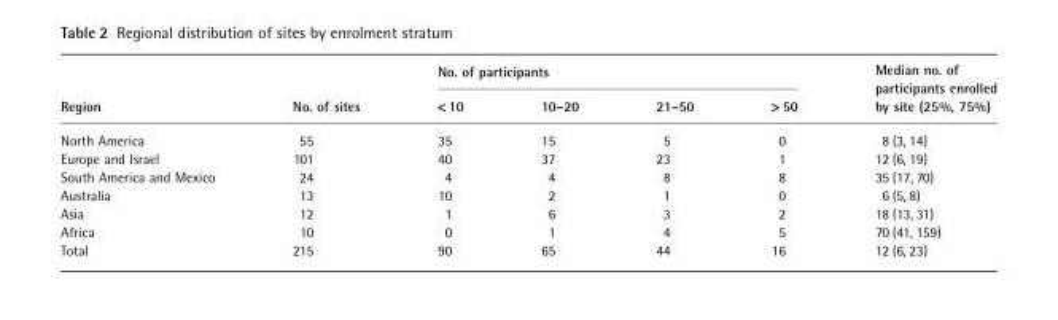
<table><thead><tr><td rowspan="2">Region</td><td rowspan="2">No. of sites</td><td colspan="4">No. of participants</td><td rowspan="2">Median no. of participants enrolled by site (25%, 75%)</td></tr><tr><td>&lt; 10</td><td>10–20</td><td>21–50</td><td>&gt; 50</td></tr></thead><tbody><tr><td>North America</td><td>55</td><td>35</td><td>15</td><td>5</td><td>0</td><td>8 (3, 14)</td></tr><tr><td>Europe and Israel</td><td>101</td><td>40</td><td>37</td><td>23</td><td>1</td><td>12 (6, 19)</td></tr><tr><td>South America and Mexico</td><td>24</td><td>4</td><td>4</td><td>8</td><td>8</td><td>35 (17, 70)</td></tr><tr><td>Australia</td><td>13</td><td>10</td><td>2</td><td>1</td><td>0</td><td>6 (5, 8)</td></tr><tr><td>Asia</td><td>12</td><td>1</td><td>6</td><td>3</td><td>2</td><td>18 (13, 31)</td></tr><tr><td>Africa</td><td>10</td><td>0</td><td>1</td><td>4</td><td>5</td><td>70 (41, 159)</td></tr><tr><td>Total</td><td>215</td><td>90</td><td>65</td><td>44</td><td>16</td><td>12 (6, 23)</td></tr></tbody></table>